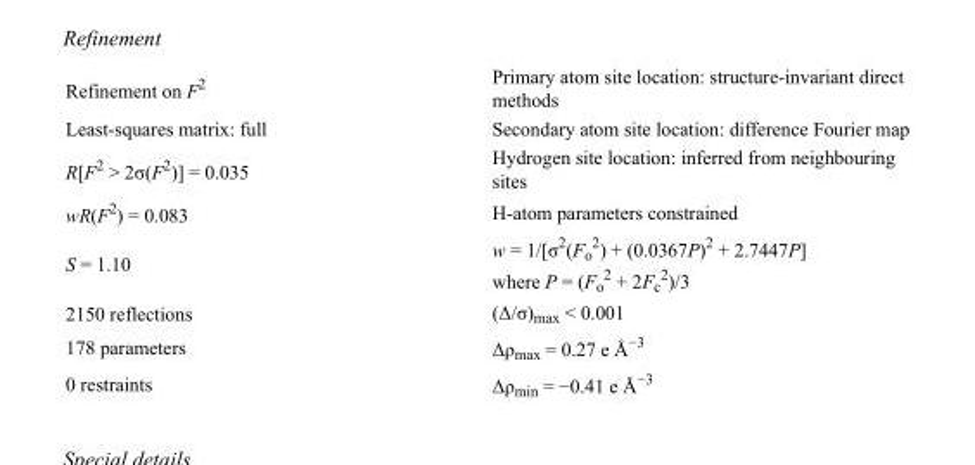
<table><tbody><tr><td>Refinement on F<sup>2</sup></td><td>Primary atom site location: structure-invariant direct methods</td></tr><tr><td>Least-squares matrix: full</td><td>Secondary atom site location: difference Fourier map</td></tr><tr><td>R[F<sup>2</sup> &gt; 2σ(F<sup>2</sup>)] = 0.035</td><td>Hydrogen site location: inferred from neighbouring sites</td></tr><tr><td>wR(F<sup>2</sup>) = 0.083</td><td>H-atom parameters constrained</td></tr><tr><td>S = 1.10</td><td>w = 1/[σ<sup>2</sup>(F<sub>o</sub> <sup>2</sup>) + (0.0367P)<sup>2</sup> + 2.7447P] where P = (F<sub>o</sub> <sup>2</sup> + 2F<sub>c</sub> <sup>2</sup>)/3</td></tr><tr><td>2150 reflections</td><td>(Δ/σ)<sub>max</sub> &lt; 0.001</td></tr><tr><td>178 parameters</td><td>Δρ<sub>max</sub> = 0.27 e Å<sup>−3</sup></td></tr><tr><td>0 restraints</td><td>Δρ<sub>min</sub> = −0.41 e Å<sup>−3</sup></td></tr></tbody></table>